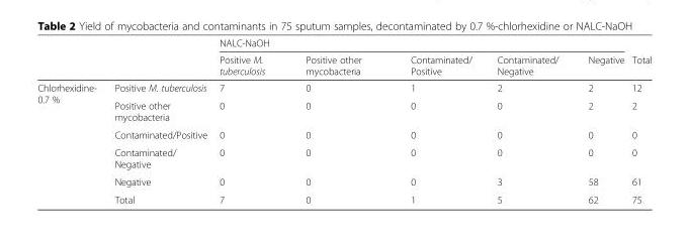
<table><thead><tr><td rowspan="2"></td><td rowspan="2"></td><td colspan="5">NALC-NaOH</td><td rowspan="2">Total</td></tr><tr><td>Positive M. tuberculosis</td><td>Positive other mycobacteria</td><td>Contaminated/ Positive</td><td>Contaminated/ Negative</td><td>Negative</td></tr></thead><tbody><tr><td rowspan="6">Chlorhexidine- 0.7 %</td><td>Positive M. tuberculosis</td><td>7</td><td>0</td><td>1</td><td>2</td><td>2</td><td>12</td></tr><tr><td>Positive other mycobacteria</td><td>0</td><td>0</td><td>0</td><td>0</td><td>2</td><td>2</td></tr><tr><td>Contaminated/Positive</td><td>0</td><td>0</td><td>0</td><td>0</td><td>0</td><td>0</td></tr><tr><td>Contaminated/ Negative</td><td>0</td><td>0</td><td>0</td><td>0</td><td>0</td><td>0</td></tr><tr><td>Negative</td><td>0</td><td>0</td><td>0</td><td>3</td><td>58</td><td>61</td></tr><tr><td>Total</td><td>7</td><td>0</td><td>1</td><td>5</td><td>62</td><td>75</td></tr></tbody></table>